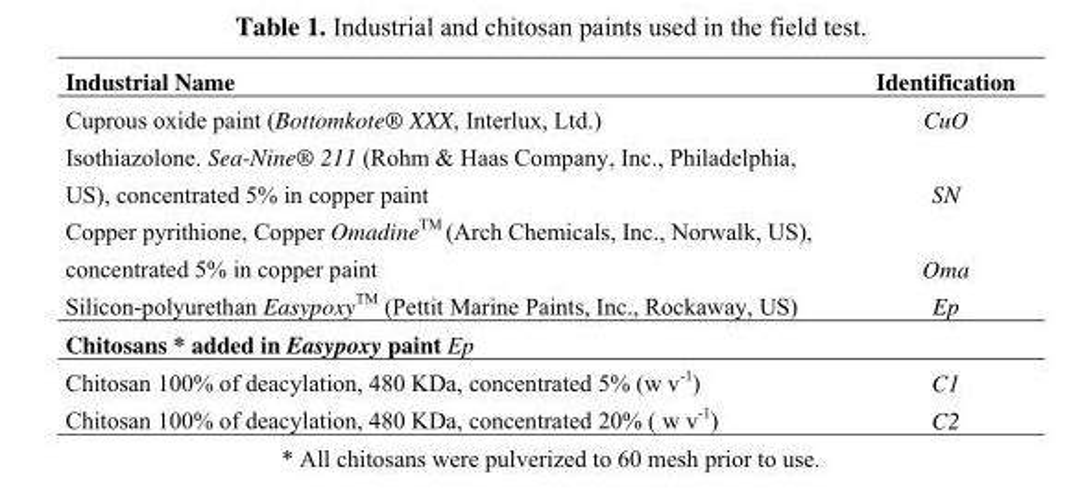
<table><thead><tr><td>Industrial Name</td><td>Identification</td></tr></thead><tbody><tr><td>Cuprous oxide paint (Bottomkote® XXX, Interlux, Ltd.)</td><td>CuO</td></tr><tr><td>Isothiazolone. Sea-Nine® 211 (Rohm &amp; Haas Company, Inc., Philadelphia, US), concentrated 5% in copper paint</td><td>SN</td></tr><tr><td>Copper pyrithione, Copper Omadine<sup>TM</sup> (Arch Chemicals, Inc., Norwalk, US), concentrated 5% in copper paint</td><td>Oma</td></tr><tr><td>Silicon-polyurethan Easypoxy<sup>TM</sup> (Pettit Marine Paints, Inc., Rockaway, US)</td><td>Ep</td></tr><tr><td colspan="2">Chitosans * added in Easypoxy paint Ep</td></tr><tr><td>Chitosan 100% of deacylation, 480 KDa, concentrated 5% (w v<sup>-1</sup>)</td><td>C1</td></tr><tr><td>Chitosan 100% of deacylation, 480 KDa, concentrated 20% ( w v<sup>-1</sup>)</td><td>C2</td></tr></tbody></table>